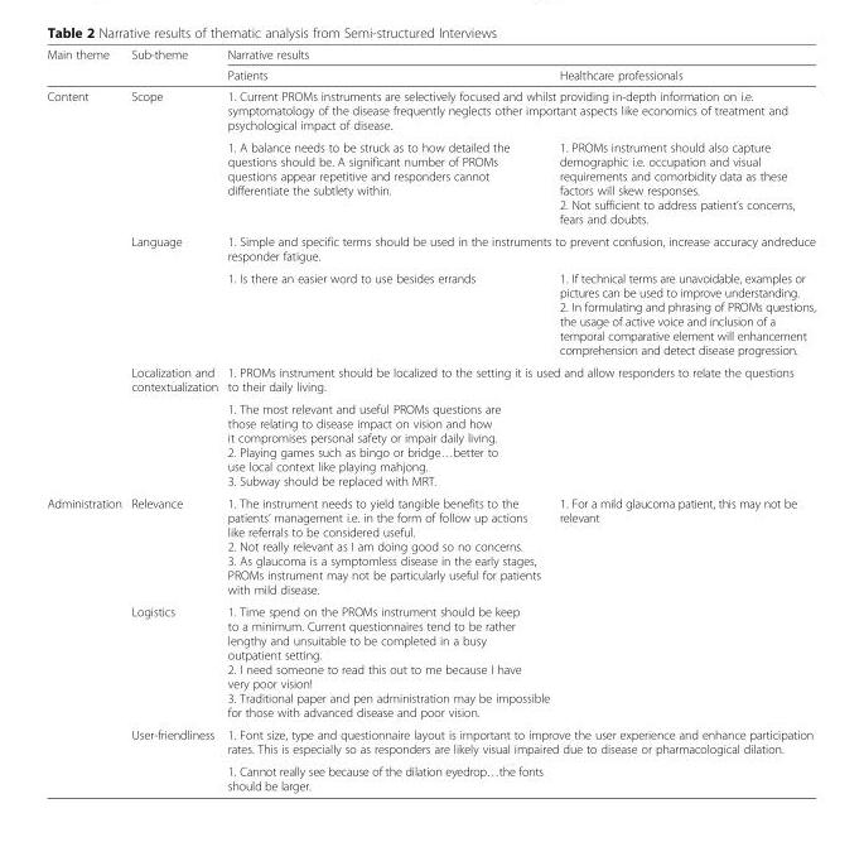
<table><thead><tr><td rowspan="2">Main theme</td><td rowspan="2">Sub-theme</td><td colspan="2">Narrative results</td></tr><tr><td>Patients</td><td>Healthcare professionals</td></tr></thead><tbody><tr><td rowspan="6">Content</td><td rowspan="2">Scope</td><td colspan="2">1. Current PROMs instruments are selectively focused and whilst providing in-depth information on i.e. symptomatology of the disease frequently neglects other important aspects like economics of treatment and psychological impact of disease.</td></tr><tr><td>1. A balance needs to be struck as to how detailed the questions should be. A significant number of PROMs questions appear repetitive and responders cannot differentiate the subtlety within.</td><td>1. PROMs instrument should also capture demographic i.e. occupation and visual requirements and comorbidity data as these factors will skew responses. 2. Not sufficient to address patient’s concerns, fears and doubts.</td></tr><tr><td rowspan="2">Language</td><td colspan="2">1. Simple and specific terms should be used in the instruments to prevent confusion, increase accuracy andreduce responder fatigue.</td></tr><tr><td>1. Is there an easier word to use besides errands</td><td>1. If technical terms are unavoidable, examples or pictures can be used to improve understanding. 2. In formulating and phrasing of PROMs questions, the usage of active voice and inclusion of a temporal comparative element will enhancement comprehension and detect disease progression.</td></tr><tr><td rowspan="2">Localization and contextualization</td><td colspan="2">1. PROMs instrument should be localized to the setting it is used and allow responders to relate the questions to their daily living.</td></tr><tr><td>1. The most relevant and useful PROMs questions are those relating to disease impact on vision and how it compromises personal safety or impair daily living. 2. Playing games such as bingo or bridge…better to use local context like playing mahjong. 3. Subway should be replaced with MRT.</td><td></td></tr><tr><td rowspan="4">Administration</td><td>Relevance</td><td>1. The instrument needs to yield tangible benefits to the patients’ management i.e. in the form of follow up actions like referrals to be considered useful. 2. Not really relevant as I am doing good so no concerns. 3. As glaucoma is a symptomless disease in the early stages, PROMs instrument may not be particularly useful for patients with mild disease.</td><td>1. For a mild glaucoma patient, this may not be relevant</td></tr><tr><td>Logistics</td><td>1. Time spend on the PROMs instrument should be keep to a minimum. Current questionnaires tend to be rather lengthy and unsuitable to be completed in a busy outpatient setting. 2. I need someone to read this out to me because I have very poor vision! 3. Traditional paper and pen administration may be impossible for those with advanced disease and poor vision.</td><td></td></tr><tr><td rowspan="2">User-friendliness</td><td colspan="2">1. Font size, type and questionnaire layout is important to improve the user experience and enhance participation rates. This is especially so as responders are likely visual impaired due to disease or pharmacological dilation.</td></tr><tr><td>1. Cannot really see because of the dilation eyedrop…the fonts should be larger.</td><td></td></tr></tbody></table>